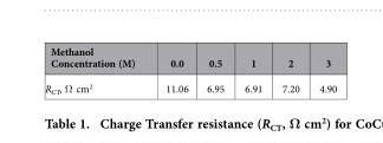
<table><thead><tr><td>Methanol Concentration (M)</td><td>0.0</td><td>0.5</td><td>1</td><td>2</td><td>3</td></tr></thead><tbody><tr><td>R<sub>CT</sub>, Ω cm<sup>2</sup></td><td>11.06</td><td>6.95</td><td>6.91</td><td>7.20</td><td>4.90</td></tr></tbody></table>